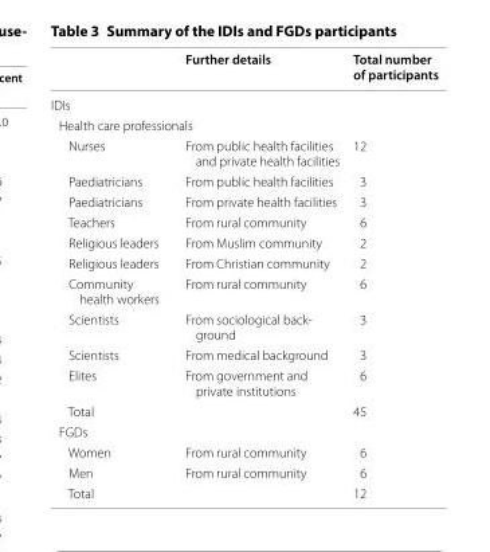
<table><thead><tr><td></td><td>Further details</td><td>Total number of participants</td></tr></thead><tbody><tr><td colspan="3">IDIs</td></tr><tr><td colspan="3">Health care professionals</td></tr><tr><td>Nurses</td><td>From public health facilities and private health facilities</td><td>12</td></tr><tr><td>Paediatricians</td><td>From public health facilities</td><td>3</td></tr><tr><td>Paediatricians</td><td>From private health facilities</td><td>3</td></tr><tr><td>Teachers</td><td>From rural community</td><td>6</td></tr><tr><td>Religious leaders</td><td>From Muslim community</td><td>2</td></tr><tr><td>Religious leaders</td><td>From Christian community</td><td>2</td></tr><tr><td>Community health workers</td><td>From rural community</td><td>6</td></tr><tr><td>Scientists</td><td>From sociological back- ground</td><td>3</td></tr><tr><td>Scientists</td><td>From medical background</td><td>3</td></tr><tr><td>Elites</td><td>From government and private institutions</td><td>6</td></tr><tr><td>Total</td><td></td><td>45</td></tr><tr><td colspan="3">FGDs</td></tr><tr><td>Women</td><td>From rural community</td><td>6</td></tr><tr><td>Men</td><td>From rural community</td><td>6</td></tr><tr><td>Total</td><td></td><td>12</td></tr></tbody></table>